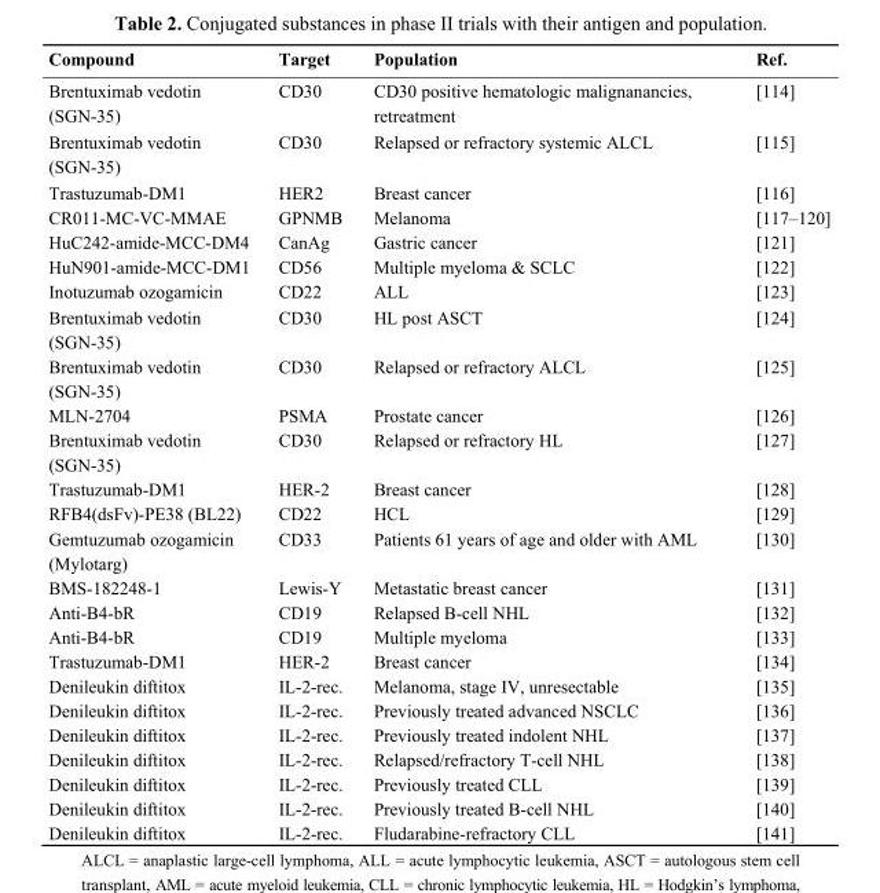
<table><thead><tr><td>Compound</td><td>Target</td><td>Population</td><td>Ref.</td></tr></thead><tbody><tr><td>Brentuximab vedotin (SGN-35)</td><td>CD30</td><td>CD30 positive hematologic malignanancies, retreatment</td><td>[114]</td></tr><tr><td>Brentuximab vedotin (SGN-35)</td><td>CD30</td><td>Relapsed or refractory systemic ALCL</td><td>[115]</td></tr><tr><td>Trastuzumab-DM1</td><td>HER2</td><td>Breast cancer</td><td>[116]</td></tr><tr><td>CR011-MC-VC-MMAE</td><td>GPNMB</td><td>Melanoma</td><td>[117–120]</td></tr><tr><td>HuC242-amide-MCC-DM4</td><td>CanAg</td><td>Gastric cancer</td><td>[121]</td></tr><tr><td>HuN901-amide-MCC-DM1</td><td>CD56</td><td>Multiple myeloma &amp; SCLC</td><td>[122]</td></tr><tr><td>Inotuzumab ozogamicin</td><td>CD22</td><td>ALL</td><td>[123]</td></tr><tr><td>Brentuximab vedotin (SGN-35)</td><td>CD30</td><td>HL post ASCT</td><td>[124]</td></tr><tr><td>Brentuximab vedotin (SGN-35)</td><td>CD30</td><td>Relapsed or refractory ALCL</td><td>[125]</td></tr><tr><td>MLN-2704</td><td>PSMA</td><td>Prostate cancer</td><td>[126]</td></tr><tr><td>Brentuximab vedotin (SGN-35)</td><td>CD30</td><td>Relapsed or refractory HL</td><td>[127]</td></tr><tr><td>Trastuzumab-DM1</td><td>HER-2</td><td>Breast cancer</td><td>[128]</td></tr><tr><td>RFB4(dsFv)-PE38 (BL22)</td><td>CD22</td><td>HCL</td><td>[129]</td></tr><tr><td>Gemtuzumab ozogamicin (Mylotarg)</td><td>CD33</td><td>Patients 61 years of age and older with AML</td><td>[130]</td></tr><tr><td>BMS-182248-1</td><td>Lewis-Y</td><td>Metastatic breast cancer</td><td>[131]</td></tr><tr><td>Anti-B4-bR</td><td>CD19</td><td>Relapsed B-cell NHL</td><td>[132]</td></tr><tr><td>Anti-B4-bR</td><td>CD19</td><td>Multiple myeloma</td><td>[133]</td></tr><tr><td>Trastuzumab-DM1</td><td>HER-2</td><td>Breast cancer</td><td>[134]</td></tr><tr><td>Denileukin diftitox</td><td>IL-2-rec.</td><td>Melanoma, stage IV, unresectable</td><td>[135]</td></tr><tr><td>Denileukin diftitox</td><td>IL-2-rec.</td><td>Previously treated advanced NSCLC</td><td>[136]</td></tr><tr><td>Denileukin diftitox</td><td>IL-2-rec.</td><td>Previously treated indolent NHL</td><td>[137]</td></tr><tr><td>Denileukin diftitox</td><td>IL-2-rec.</td><td>Relapsed/refractory T-cell NHL</td><td>[138]</td></tr><tr><td>Denileukin diftitox</td><td>IL-2-rec.</td><td>Previously treated CLL</td><td>[139]</td></tr><tr><td>Denileukin diftitox</td><td>IL-2-rec.</td><td>Previously treated B-cell NHL</td><td>[140]</td></tr><tr><td>Denileukin diftitox</td><td>IL-2-rec.</td><td>Fludarabine-refractory CLL</td><td>[141]</td></tr></tbody></table>